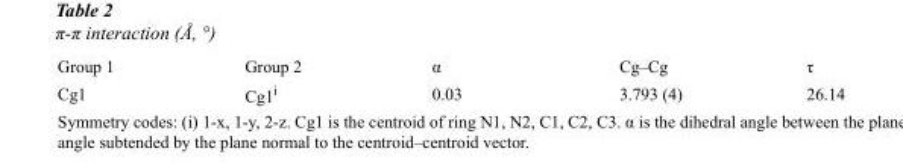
<table><tbody><tr><td>Group 1</td><td>Group 2</td><td>α</td><td>Cg–Cg</td><td>τ</td></tr><tr><td>Cg1</td><td>Cg1<sup>i</sup></td><td>0.03</td><td>3.793 (4)</td><td>26.14</td></tr></tbody></table>